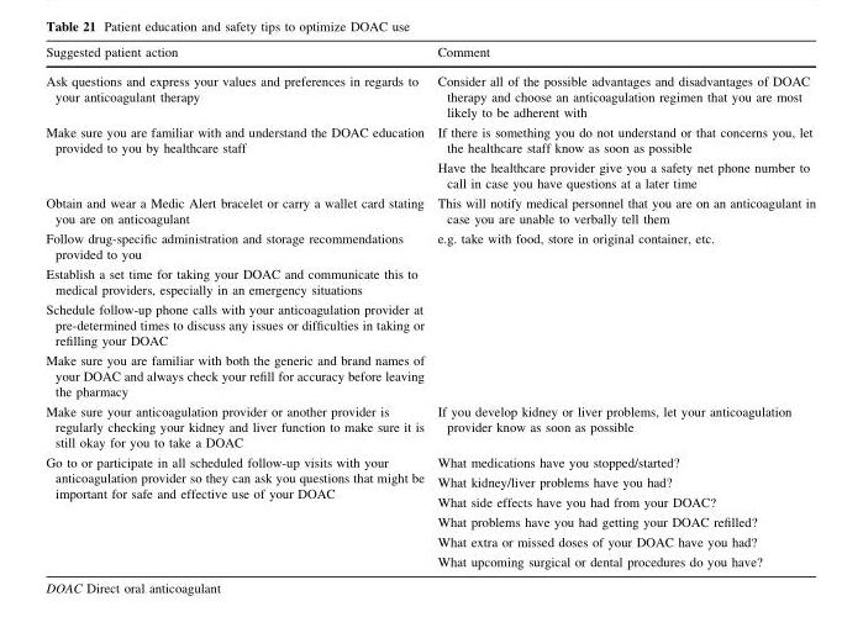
<table><thead><tr><td>Suggested patient action</td><td>Comment</td></tr></thead><tbody><tr><td>Ask questions and express your values and preferences in regards to your anticoagulant therapy</td><td>Consider all of the possible advantages and disadvantages of DOAC therapy and choose an anticoagulation regimen that you are most likely to be adherent with</td></tr><tr><td>Make sure you are familiar with and understand the DOAC education provided to you by healthcare staff</td><td>If there is something you do not understand or that concerns you, let the healthcare staff know as soon as possible Have the healthcare provider give you a safety net phone number to call in case you have questions at a later time</td></tr><tr><td>Obtain and wear a Medic Alert bracelet or carry a wallet card stating you are on anticoagulant</td><td>This will notify medical personnel that you are on an anticoagulant in case you are unable to verbally tell them</td></tr><tr><td>Follow drug-specific administration and storage recommendations provided to you</td><td>e.g. take with food, store in original container, etc.</td></tr><tr><td colspan="2">Establish a set time for taking your DOAC and communicate this to medical providers, especially in an emergency situations</td></tr><tr><td colspan="2">Schedule follow-up phone calls with your anticoagulation provider at pre-determined times to discuss any issues or difficulties in taking or refilling your DOAC</td></tr><tr><td colspan="2">Make sure you are familiar with both the generic and brand names of your DOAC and always check your refill for accuracy before leaving the pharmacy</td></tr><tr><td>Make sure your anticoagulation provider or another provider is regularly checking your kidney and liver function to make sure it is still okay for you to take a DOAC</td><td>If you develop kidney or liver problems, let your anticoagulation provider know as soon as possible</td></tr><tr><td>Go to or participate in all scheduled follow-up visits with your anticoagulation provider so they can ask you questions that might be important for safe and effective use of your DOAC</td><td>What medications have you stopped/started? What kidney/liver problems have you had? What side effects have you had from your DOAC? What problems have you had getting your DOAC refilled? What extra or missed doses of your DOAC have you had? What upcoming surgical or dental procedures do you have?</td></tr></tbody></table>